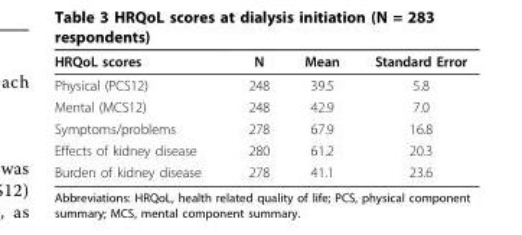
<table><thead><tr><td>HRQoL scores</td><td>N</td><td>Mean</td><td>Standard Error</td></tr></thead><tbody><tr><td>Physical (PCS12)</td><td>248</td><td>39.5</td><td>5.8</td></tr><tr><td>Mental (MCS12)</td><td>248</td><td>42.9</td><td>7.0</td></tr><tr><td>Symptoms/problems</td><td>278</td><td>67.9</td><td>16.8</td></tr><tr><td>Effects of kidney disease</td><td>280</td><td>61.2</td><td>20.3</td></tr><tr><td>Burden of kidney disease</td><td>278</td><td>41.1</td><td>23.6</td></tr></tbody></table>